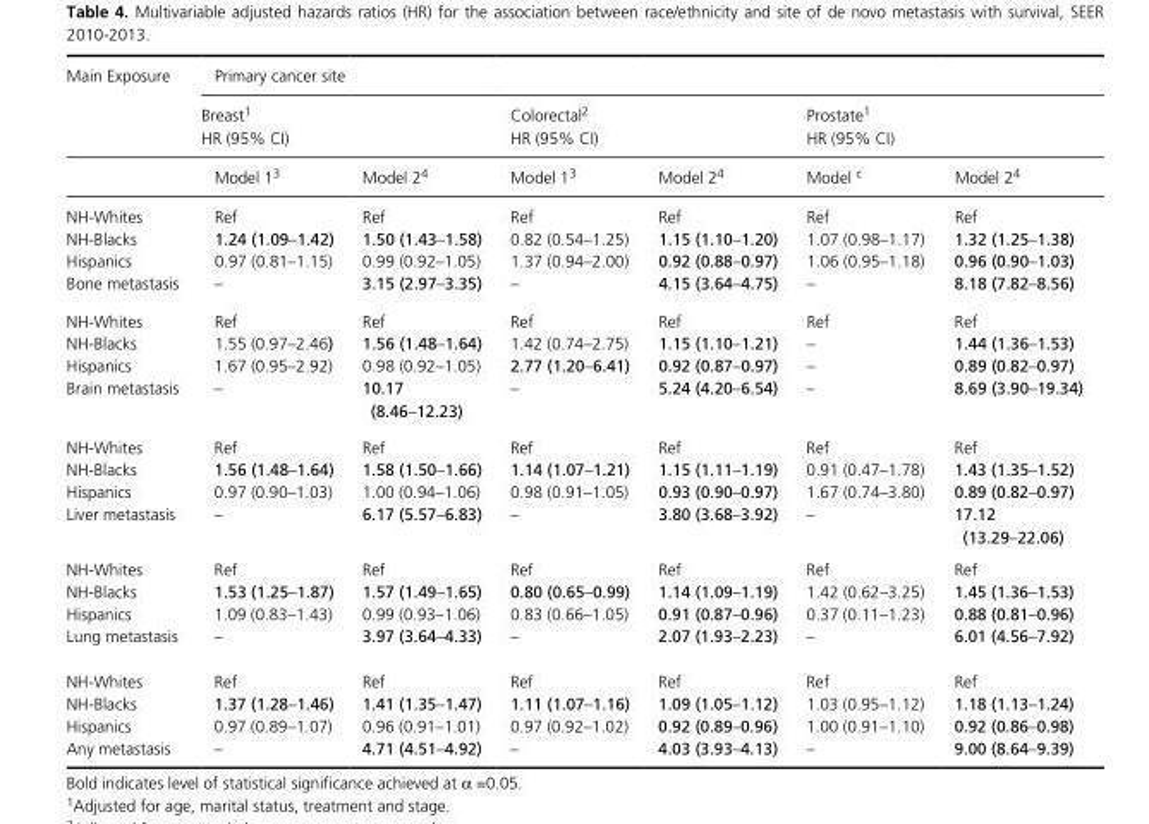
<table><thead><tr><td rowspan="3">Main Exposure</td><td colspan="6">Primary cancer site</td></tr><tr><td colspan="2">Breast1 HR (95% CI)</td><td colspan="2">Colorectal2 HR (95% CI)</td><td colspan="2">Prostate1 HR (95% CI)</td></tr><tr><td>Model 13</td><td>Model 24</td><td>Model 13</td><td>Model 24</td><td>Model c</td><td>Model 24</td></tr></thead><tbody><tr><td>NH- Whites</td><td>Ref</td><td>Ref</td><td>Ref</td><td>Ref</td><td>Ref</td><td>Ref</td></tr><tr><td>NH- Blacks</td><td>1.24 (1.09–1.42)</td><td>1.50 (1.43–1.58)</td><td>0.82 (0.54–1.25)</td><td>1.15 (1.10–1.20)</td><td>1.07 (0.98–1.17)</td><td>1.32 (1.25–1.38)</td></tr><tr><td>Hispanics</td><td>0.97 (0.81–1.15)</td><td>0.99 (0.92–1.05)</td><td>1.37 (0.94–2.00)</td><td>0.92 (0.88–0.97)</td><td>1.06 (0.95–1.18)</td><td>0.96 (0.90–1.03)</td></tr><tr><td>Bone metastasis</td><td>–</td><td>3.15 (2.97–3.35)</td><td>–</td><td>4.15 (3.64–4.75)</td><td>–</td><td>8.18 (7.82–8.56)</td></tr><tr><td>NH- Whites</td><td>Ref</td><td>Ref</td><td>Ref</td><td>Ref</td><td>Ref</td><td>Ref</td></tr><tr><td>NH- Blacks</td><td>1.55 (0.97–2.46)</td><td>1.56 (1.48–1.64)</td><td>1.42 (0.74–2.75)</td><td>1.15 (1.10–1.21)</td><td>–</td><td>1.44 (1.36–1.53)</td></tr><tr><td>Hispanics</td><td>1.67 (0.95–2.92)</td><td>0.98 (0.92–1.05)</td><td>2.77 (1.20–6.41)</td><td>0.92 (0.87–0.97)</td><td>–</td><td>0.89 (0.82–0.97)</td></tr><tr><td>Brain metastasis</td><td>–</td><td>10.17 (8.46–12.23)</td><td>–</td><td>5.24 (4.20–6.54)</td><td>–</td><td>8.69 (3.90–19.34)</td></tr><tr><td>NH- Whites</td><td>Ref</td><td>Ref</td><td>Ref</td><td>Ref</td><td>Ref</td><td>Ref</td></tr><tr><td>NH- Blacks</td><td>1.56 (1.48–1.64)</td><td>1.58 (1.50–1.66)</td><td>1.14 (1.07–1.21)</td><td>1.15 (1.11–1.19)</td><td>0.91 (0.47–1.78)</td><td>1.43 (1.35–1.52)</td></tr><tr><td>Hispanics</td><td>0.97 (0.90–1.03)</td><td>1.00 (0.94–1.06)</td><td>0.98 (0.91–1.05)</td><td>0.93 (0.90–0.97)</td><td>1.67 (0.74–3.80)</td><td>0.89 (0.82–0.97)</td></tr><tr><td>Liver metastasis</td><td>–</td><td>6.17 (5.57–6.83)</td><td>–</td><td>3.80 (3.68–3.92)</td><td>–</td><td>17.12 (13.29–22.06)</td></tr><tr><td>NH- Whites</td><td>Ref</td><td>Ref</td><td>Ref</td><td>Ref</td><td>Ref</td><td>Ref</td></tr><tr><td>NH- Blacks</td><td>1.53 (1.25–1.87)</td><td>1.57 (1.49–1.65)</td><td>0.80 (0.65–0.99)</td><td>1.14 (1.09–1.19)</td><td>1.42 (0.62–3.25)</td><td>1.45 (1.36–1.53)</td></tr><tr><td>Hispanics</td><td>1.09 (0.83–1.43)</td><td>0.99 (0.93–1.06)</td><td>0.83 (0.66–1.05)</td><td>0.91 (0.87–0.96)</td><td>0.37 (0.11–1.23)</td><td>0.88 (0.81–0.96)</td></tr><tr><td>Lung metastasis</td><td>–</td><td>3.97 (3.64–4.33)</td><td>–</td><td>2.07 (1.93–2.23)</td><td>–</td><td>6.01 (4.56–7.92)</td></tr><tr><td>NH- Whites</td><td>Ref</td><td>Ref</td><td>Ref</td><td>Ref</td><td>Ref</td><td>Ref</td></tr><tr><td>NH- Blacks</td><td>1.37 (1.28–1.46)</td><td>1.41 (1.35–1.47)</td><td>1.11 (1.07–1.16)</td><td>1.09 (1.05–1.12)</td><td>1.03 (0.95–1.12)</td><td>1.18 (1.13–1.24)</td></tr><tr><td>Hispanics</td><td>0.97 (0.89–1.07)</td><td>0.96 (0.91–1.01)</td><td>0.97 (0.92–1.02)</td><td>0.92 (0.89–0.96)</td><td>1.00 (0.91–1.10)</td><td>0.92 (0.86–0.98)</td></tr><tr><td>Any metastasis</td><td>–</td><td>4.71 (4.51–4.92)</td><td>–</td><td>4.03 (3.93–4.13)</td><td>–</td><td>9.00 (8.64–9.39)</td></tr></tbody></table>